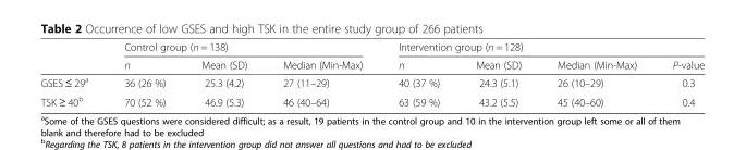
<table><thead><tr><td rowspan="2"></td><td colspan="3">Control group (n = 138)</td><td colspan="4">Intervention group (n = 128)</td></tr><tr><td>n</td><td>Mean (SD)</td><td>Median (Min-Max)</td><td>n</td><td>Mean (SD)</td><td>Median (Min-Max)</td><td>P-value</td></tr></thead><tbody><tr><td>GSES ≤ 29<sup>a</sup></td><td>36 (26 %)</td><td>25.3 (4.2)</td><td>27 (11–29)</td><td>40 (37 %)</td><td>24.3 (5.1)</td><td>26 (10–29)</td><td>0.3</td></tr><tr><td>TSK ≥ 40<sup>b</sup></td><td>70 (52 %)</td><td>46.9 (5.3)</td><td>46 (40–64)</td><td>63 (59 %)</td><td>43.2 (5.5)</td><td>45 (40–60)</td><td>0.4</td></tr></tbody></table>